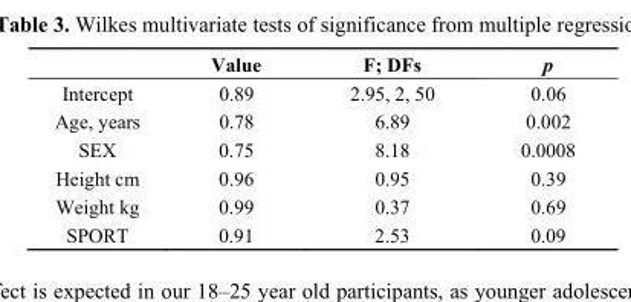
<table><thead><tr><td></td><td>Value</td><td>F; DFs</td><td>p</td></tr></thead><tbody><tr><td>Intercept</td><td>0.89</td><td>2.95, 2, 50</td><td>0.06</td></tr><tr><td>Age, years</td><td>0.78</td><td>6.89</td><td>0.002</td></tr><tr><td>SEX</td><td>0.75</td><td>8.18</td><td>0.0008</td></tr><tr><td>Height cm</td><td>0.96</td><td>0.95</td><td>0.39</td></tr><tr><td>Weight kg</td><td>0.99</td><td>0.37</td><td>0.69</td></tr><tr><td>SPORT</td><td>0.91</td><td>2.53</td><td>0.09</td></tr></tbody></table>